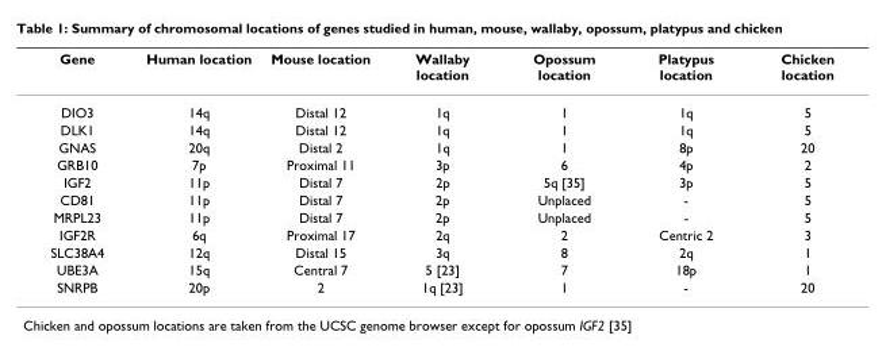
<table><thead><tr><td>Gene</td><td>Human location</td><td>Mouse location</td><td>Wallaby location</td><td>Opossum location</td><td>Platypus location</td><td>Chicken location</td></tr></thead><tbody><tr><td>DIO3</td><td>14q</td><td>Distal 12</td><td>1q</td><td>1</td><td>1q</td><td>5</td></tr><tr><td>DLK1</td><td>14q</td><td>Distal 12</td><td>1q</td><td>1</td><td>1q</td><td>5</td></tr><tr><td>GNAS</td><td>20q</td><td>Distal 2</td><td>1q</td><td>1</td><td>8p</td><td>20</td></tr><tr><td>GRB10</td><td>7p</td><td>Proximal 11</td><td>3p</td><td>6</td><td>4p</td><td>2</td></tr><tr><td>IGF2</td><td>11p</td><td>Distal 7</td><td>2p</td><td>5q [35]</td><td>3p</td><td>5</td></tr><tr><td>CD81</td><td>11p</td><td>Distal 7</td><td>2p</td><td>Unplaced</td><td>-</td><td>5</td></tr><tr><td>MRPL23</td><td>11p</td><td>Distal 7</td><td>2p</td><td>Unplaced</td><td>-</td><td>5</td></tr><tr><td>IGF2R</td><td>6q</td><td>Proximal 17</td><td>2q</td><td>2</td><td>Centric 2</td><td>3</td></tr><tr><td>SLC38A4</td><td>12q</td><td>Distal 15</td><td>3q</td><td>8</td><td>2q</td><td>1</td></tr><tr><td>UBE3A</td><td>15q</td><td>Central 7</td><td>5 [23]</td><td>7</td><td>18p</td><td>1</td></tr><tr><td>SNRPB</td><td>20p</td><td>2</td><td>1q [23]</td><td>1</td><td>-</td><td>20</td></tr></tbody></table>